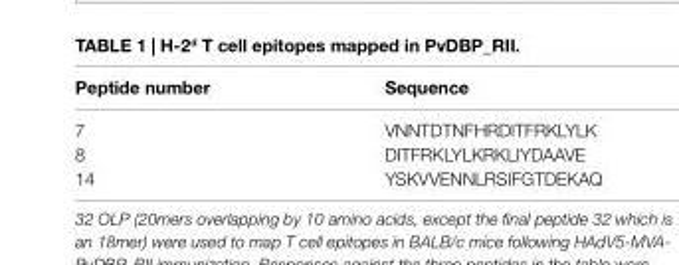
<table><thead><tr><td>Peptide number</td><td>sequence</td></tr></thead><tbody><tr><td>7</td><td>VNNTDTNFHRDITFRKLYLK</td></tr><tr><td>8</td><td>DITFRKLYLKRKLIYDAAVE</td></tr><tr><td>14</td><td>YSKVVENNLRSIFGTDEKAQ</td></tr></tbody></table>